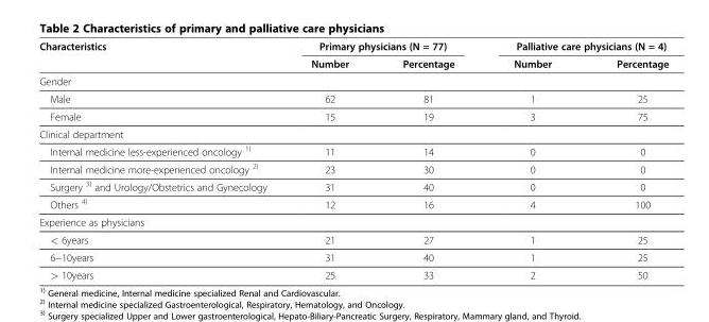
<table><thead><tr><td rowspan="2">Characteristics</td><td colspan="2">Primary physicians (N = 77)</td><td colspan="2">Palliative care physicians (N = 4)</td></tr><tr><td>Number</td><td>Percentage</td><td>Number</td><td>Percentage</td></tr></thead><tbody><tr><td colspan="5">Gender</td></tr><tr><td>Male</td><td>62</td><td>81</td><td>1</td><td>25</td></tr><tr><td>Female</td><td>15</td><td>19</td><td>3</td><td>75</td></tr><tr><td colspan="5">Clinical department</td></tr><tr><td>Internal medicine less-experienced oncology <sup>1)</sup></td><td>11</td><td>14</td><td>0</td><td>0</td></tr><tr><td>Internal medicine more-experienced oncology <sup>2)</sup></td><td>23</td><td>30</td><td>0</td><td>0</td></tr><tr><td>Surgery <sup>3)</sup> and Urology/Obstetrics and Gynecology</td><td>31</td><td>40</td><td>0</td><td>0</td></tr><tr><td>Others <sup>4)</sup></td><td>12</td><td>16</td><td>4</td><td>100</td></tr><tr><td colspan="5">Experience as physicians</td></tr><tr><td>&lt; 6years</td><td>21</td><td>27</td><td>1</td><td>25</td></tr><tr><td>6−10years</td><td>31</td><td>40</td><td>1</td><td>25</td></tr><tr><td>&gt; 10years</td><td>25</td><td>33</td><td>2</td><td>50</td></tr></tbody></table>